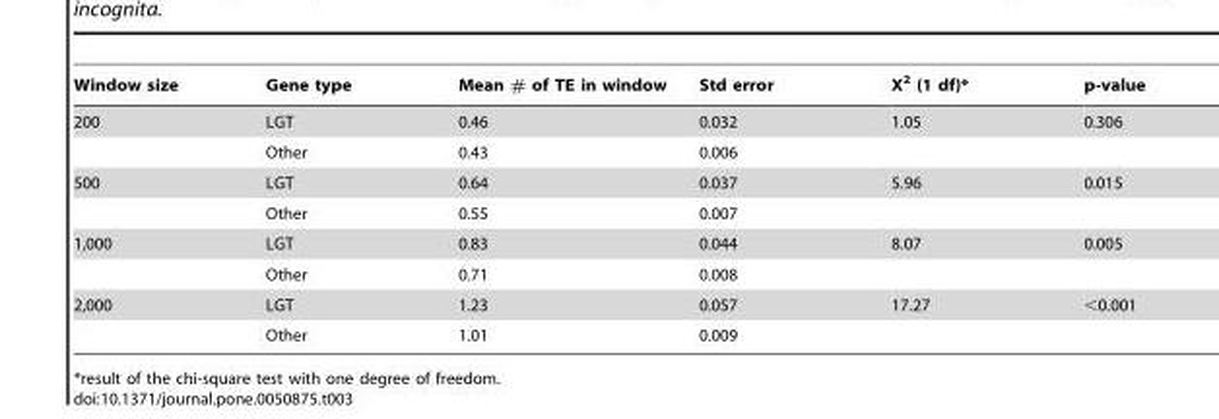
<table><thead><tr><td>Window size</td><td>Gene type</td><td>Mean # of TE in window</td><td>Std error</td><td>X<sup>2</sup> (1 df)*</td><td>p-value</td></tr></thead><tbody><tr><td rowspan="2">200</td><td>LGT</td><td>0.46</td><td>0.032</td><td>1.05</td><td>0.306</td></tr><tr><td>Other</td><td>0.43</td><td>0.006</td><td></td><td></td></tr><tr><td rowspan="2">500</td><td>LGT</td><td>0.64</td><td>0.037</td><td>5.96</td><td>0.015</td></tr><tr><td>Other</td><td>0.55</td><td>0.007</td><td></td><td></td></tr><tr><td rowspan="2">1,000</td><td>LGT</td><td>0.83</td><td>0.044</td><td>8.07</td><td>0.005</td></tr><tr><td>Other</td><td>0.71</td><td>0.008</td><td></td><td></td></tr><tr><td rowspan="2">2,000</td><td>LGT</td><td>1.23</td><td>0.057</td><td>17.27</td><td>&lt;0.001</td></tr><tr><td>Other</td><td>1.01</td><td>0.009</td><td></td><td></td></tr></tbody></table>